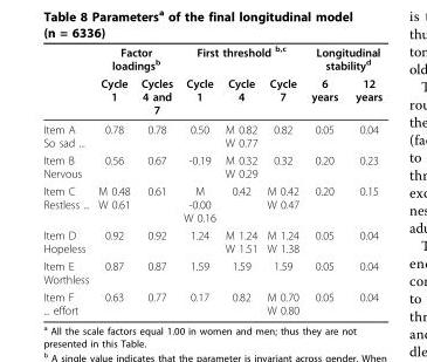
<table><thead><tr><td rowspan="2"></td><td colspan="2">Factor loadings<sup>b</sup></td><td colspan="3">First threshold <sup>b,c</sup></td><td colspan="2">Longitudinal stability<sup>d</sup></td></tr><tr><td>Cycle 1</td><td>Cycles 4 and 7</td><td>Cycle 1</td><td>Cycle 4</td><td>Cycle 7</td><td>6 years</td><td>12 years</td></tr></thead><tbody><tr><td>Item A So sad ...</td><td>0.78</td><td>0.78</td><td>0.50</td><td>M 0.82 W 0.77</td><td>0.82</td><td>0.05</td><td>0.04</td></tr><tr><td>Item B Nervous</td><td>0.56</td><td>0.67</td><td>-0.19</td><td>M 0.32 W 0.29</td><td>0.32</td><td>0.20</td><td>0.23</td></tr><tr><td>Item C Restless ...</td><td>M 0.48 W 0.61</td><td>0.61</td><td>M -0.00 W 0.16</td><td>0.42</td><td>M 0.42 W 0.47</td><td>0.20</td><td>0.15</td></tr><tr><td>Item D Hopeless</td><td>0.92</td><td>0.92</td><td>1.24</td><td>M 1.24 W 1.51</td><td>M 1.24 W 1.38</td><td>0.05</td><td>0.04</td></tr><tr><td>Item E Worthless</td><td>0.87</td><td>0.87</td><td>1.59</td><td>1.59</td><td>1.59</td><td>0.05</td><td>0.04</td></tr><tr><td>Item F ... effort</td><td>0.63</td><td>0.77</td><td>0.17</td><td>0.82</td><td>M 0.70 W 0.80</td><td>0.05</td><td>0.04</td></tr></tbody></table>